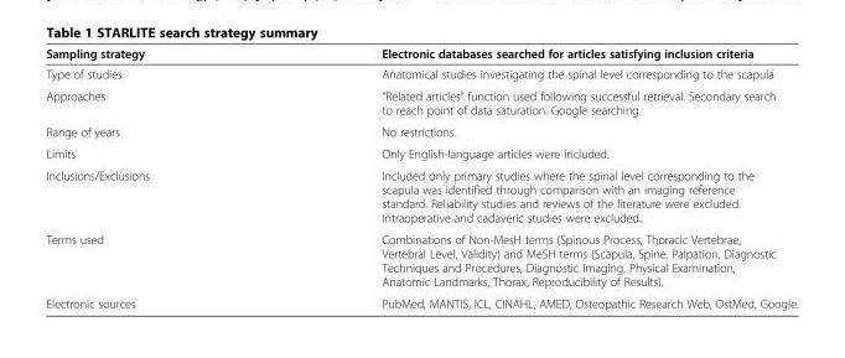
<table><thead><tr><td>Sampling strategy</td><td>Electronic databases searched for articles satisfying inclusion criteria</td></tr></thead><tbody><tr><td>Type of studies</td><td>Anatomical studies investigating the spinal level corresponding to the scapula</td></tr><tr><td>Approaches</td><td>“Related articles” function used following successful retrieval. Secondary search to reach point of data saturation. Google searching.</td></tr><tr><td>Range of years</td><td>No restrictions.</td></tr><tr><td>Limits</td><td>Only English-language articles were included.</td></tr><tr><td>Inclusions/Exclusions</td><td>Included only primary studies where the spinal level corresponding to the scapula was identified through comparison with an imaging reference standard. Reliability studies and reviews of the literature were excluded. Intraoperative and cadaveric studies were excluded.</td></tr><tr><td>Terms used</td><td>Combinations of Non-MesH terms (Spinous Process, Thoracic Vertebrae, Vertebral Level, Validity) and MeSH terms (Scapula, Spine, Palpation, Diagnostic Techniques and Procedures, Diagnostic Imaging, Physical Examination, Anatomic Landmarks, Thorax, Reproducibility of Results).</td></tr><tr><td>Electronic sources</td><td>PubMed, MANTIS, ICL, CINAHL, AMED, Osteopathic Research Web, OstMed, Google.</td></tr></tbody></table>